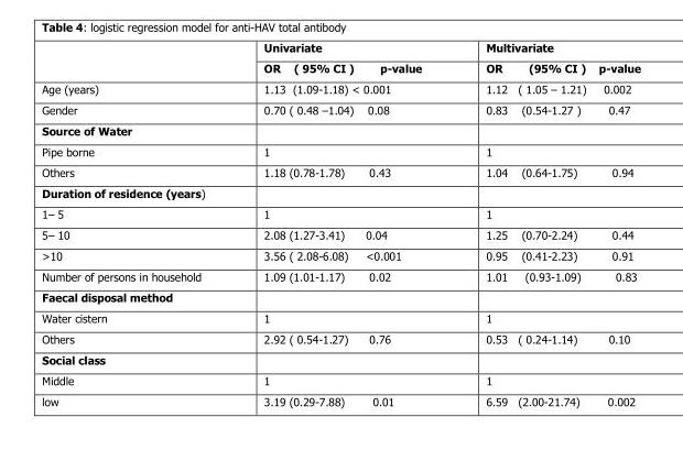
<table><thead><tr><td rowspan="2"></td><td rowspan="2">Univariate OR ( 95% CI ) p-value</td><td rowspan="2">Multivariate OR (95% CI ) p-value</td></tr><tr></tr></thead><tbody><tr><td>Age (years)</td><td>1.13 (1.09-1.18) &lt; 0.001</td><td>1.12 ( 1.05 – 1.21) 0.002</td></tr><tr><td>Gender</td><td>0.70 ( 0.48 –1.04) 0.08</td><td>0.83 (0.54-1.27 ) 0.47</td></tr><tr><td colspan="3">Source of Water</td></tr><tr><td>Pipe borne</td><td>1</td><td>1</td></tr><tr><td>Others</td><td>1.18 (0.78-1.78) 0.43</td><td>1.04 (0.64-1.75) 0.94</td></tr><tr><td colspan="3">Duration of residence (years)</td></tr><tr><td>1– 5</td><td>1</td><td>1</td></tr><tr><td>5– 10</td><td>2.08 (1.27-3.41) 0.04</td><td>1.25 (0.70-2.24) 0.44</td></tr><tr><td>&gt;10</td><td>3.56 ( 2.08-6.08) &lt;0.001</td><td>0.95 (0.41-2.23) 0.91</td></tr><tr><td>Number of persons in household</td><td>1.09 (1.01-1.17) 0.02</td><td>1.01 (0.93-1.09) 0.83</td></tr><tr><td colspan="3">Faecal disposal method</td></tr><tr><td>Water cistern</td><td>1</td><td>1</td></tr><tr><td>Others</td><td>2.92 ( 0.54-1.27) 0.76</td><td>0.53 ( 0.24-1.14) 0.10</td></tr><tr><td colspan="3">Social class</td></tr><tr><td>Middle</td><td>1</td><td>1</td></tr><tr><td>low</td><td>3.19 (0.29-7.88) 0.01</td><td>6.59 (2.00-21.74) 0.002</td></tr></tbody></table>